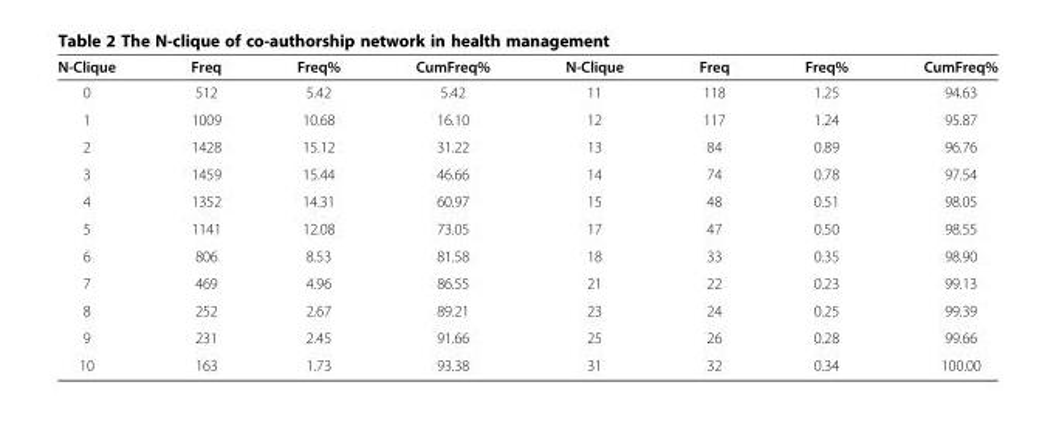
<table><thead><tr><td>N-Clique</td><td>Freq</td><td>Freq%</td><td>CumFreq%</td><td>N-Clique</td><td>Freq</td><td>Freq%</td><td>CumFreq%</td></tr></thead><tbody><tr><td>0</td><td>512</td><td>5.42</td><td>5.42</td><td>11</td><td>118</td><td>1.25</td><td>94.63</td></tr><tr><td>1</td><td>1009</td><td>10.68</td><td>16.10</td><td>12</td><td>117</td><td>1.24</td><td>95.87</td></tr><tr><td>2</td><td>1428</td><td>15.12</td><td>31.22</td><td>13</td><td>84</td><td>0.89</td><td>96.76</td></tr><tr><td>3</td><td>1459</td><td>15.44</td><td>46.66</td><td>14</td><td>74</td><td>0.78</td><td>97.54</td></tr><tr><td>4</td><td>1352</td><td>14.31</td><td>60.97</td><td>15</td><td>48</td><td>0.51</td><td>98.05</td></tr><tr><td>5</td><td>1141</td><td>12.08</td><td>73.05</td><td>17</td><td>47</td><td>0.50</td><td>98.55</td></tr><tr><td>6</td><td>806</td><td>8.53</td><td>81.58</td><td>18</td><td>33</td><td>0.35</td><td>98.90</td></tr><tr><td>7</td><td>469</td><td>4.96</td><td>86.55</td><td>21</td><td>22</td><td>0.23</td><td>99.13</td></tr><tr><td>8</td><td>252</td><td>2.67</td><td>89.21</td><td>23</td><td>24</td><td>0.25</td><td>99.39</td></tr><tr><td>9</td><td>231</td><td>2.45</td><td>91.66</td><td>25</td><td>26</td><td>0.28</td><td>99.66</td></tr><tr><td>10</td><td>163</td><td>1.73</td><td>93.38</td><td>31</td><td>32</td><td>0.34</td><td>100.00</td></tr></tbody></table>